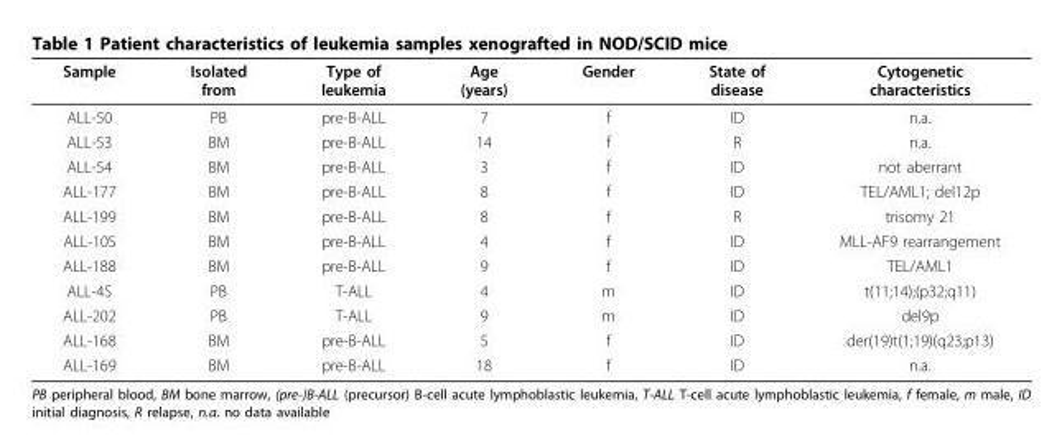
<table><thead><tr><td>Sample</td><td>Isolated from</td><td>Type of leukemia</td><td>Age (years)</td><td>Gender</td><td>State of disease</td><td>Cytogenetic characteristics</td></tr></thead><tbody><tr><td>ALL-50</td><td>PB</td><td>pre-B-ALL</td><td>7</td><td>f</td><td>ID</td><td>n.a.</td></tr><tr><td>ALL-53</td><td>BM</td><td>pre-B-ALL</td><td>14</td><td>f</td><td>R</td><td>n.a.</td></tr><tr><td>ALL-54</td><td>BM</td><td>pre-B-ALL</td><td>3</td><td>f</td><td>ID</td><td>not aberrant</td></tr><tr><td>ALL-177</td><td>BM</td><td>pre-B-ALL</td><td>8</td><td>f</td><td>ID</td><td>TEL/AML1; del12p</td></tr><tr><td>ALL-199</td><td>BM</td><td>pre-B-ALL</td><td>8</td><td>f</td><td>R</td><td>trisomy 21</td></tr><tr><td>ALL-10S</td><td>BM</td><td>pre-B-ALL</td><td>4</td><td>f</td><td>ID</td><td>MLL-AF9 rearrangement</td></tr><tr><td>ALL-188</td><td>BM</td><td>pre-B-ALL</td><td>9</td><td>f</td><td>ID</td><td>TEL/AML1</td></tr><tr><td>ALL-4S</td><td>PB</td><td>T-ALL</td><td>4</td><td>m</td><td>ID</td><td>t(11;14);(p32;q11)</td></tr><tr><td>ALL-202</td><td>PB</td><td>T-ALL</td><td>9</td><td>m</td><td>ID</td><td>del9p</td></tr><tr><td>ALL-168</td><td>BM</td><td>pre-B-ALL</td><td>5</td><td>f</td><td>ID</td><td>der(19)t(1;19)(q23;p13)</td></tr><tr><td>ALL-169</td><td>BM</td><td>pre-B-ALL</td><td>18</td><td>f</td><td>ID</td><td>n.a.</td></tr></tbody></table>